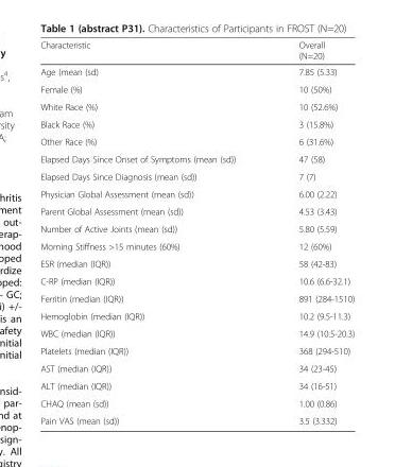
<table><thead><tr><td>Characteristic</td><td>Overall (N=20)</td></tr></thead><tbody><tr><td>Age (mean (sd)</td><td>7.85 (5.33)</td></tr><tr><td>Female (%)</td><td>10 (50%)</td></tr><tr><td>White Race (%)</td><td>10 (52.6%)</td></tr><tr><td>Black Race (%)</td><td>3 (15.8%)</td></tr><tr><td>Other Race (%)</td><td>6 (31.6%)</td></tr><tr><td>Elapsed Days Since Onset of Symptoms (mean (sd))</td><td>47 (58)</td></tr><tr><td>Elapsed Days Since Diagnosis (mean (sd))</td><td>7 (7)</td></tr><tr><td>Physician Global Assessment (mean (sd))</td><td>6.00 (2.22)</td></tr><tr><td>Parent Global Assessment (mean (sd))</td><td>4.53 (3.43)</td></tr><tr><td>Number of Active Joints (mean (sd))</td><td>5.80 (5.59)</td></tr><tr><td>Morning Stiffness &gt;15 minutes (60%)</td><td>12 (60%)</td></tr><tr><td>ESR (median (IQR))</td><td>58 (42-83)</td></tr><tr><td>C-RP (median (IQR))</td><td>10.6 (6.6-32.1)</td></tr><tr><td>Ferritin (median (IQR))</td><td>891 (284-1510)</td></tr><tr><td>Hemoglobin (median (IQR))</td><td>10.2 (9.5-11.3)</td></tr><tr><td>WBC (median (IQR))</td><td>14.9 (10.5-20.3)</td></tr><tr><td>Platelets (median (IQR))</td><td>368 (294-510)</td></tr><tr><td>AST (median (IQR))</td><td>34 (23-45)</td></tr><tr><td>ALT (median (IQR))</td><td>34 (16-51)</td></tr><tr><td>CHAQ (mean (sd))</td><td>1.00 (0.86)</td></tr><tr><td>Pain VAS (mean (sd))</td><td>3.5 (3.332)</td></tr></tbody></table>